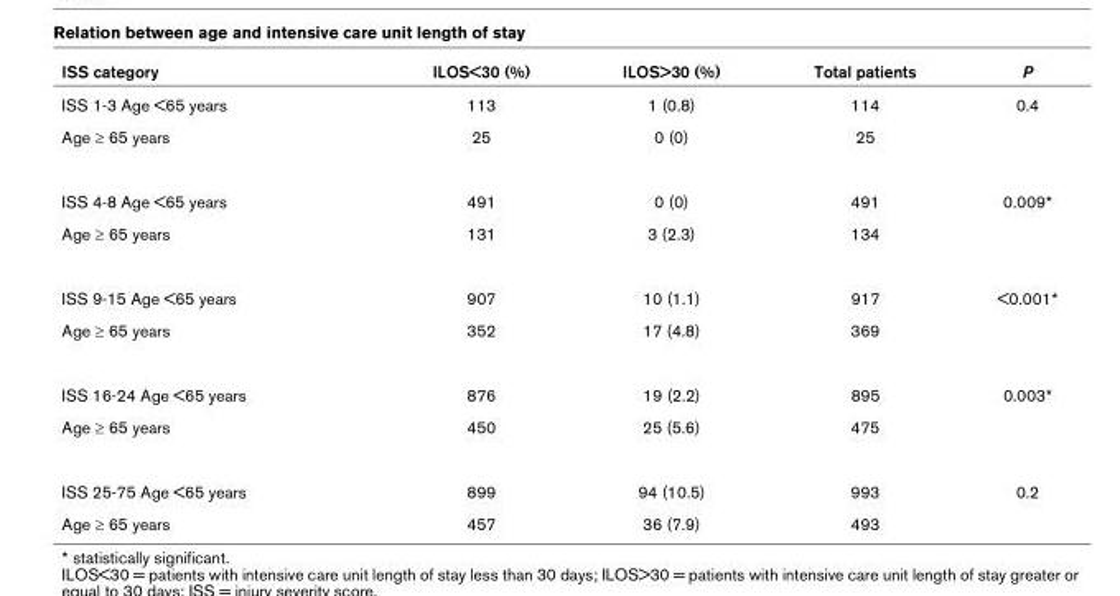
<table><thead><tr><td>ISS category</td><td>ILOS&lt;30 (%)</td><td>ILOS&gt;30 (%)</td><td>Total patients</td><td>P</td></tr></thead><tbody><tr><td>ISS 1-3 Age &lt;65 years</td><td>113</td><td>1 (0.8)</td><td>114</td><td>0.4</td></tr><tr><td>Age ≥ 65 years</td><td>25</td><td>0 (0)</td><td>25</td><td></td></tr><tr><td>ISS 4-8 Age &lt;65 years</td><td>491</td><td>0 (0)</td><td>491</td><td>0.009*</td></tr><tr><td>Age ≥ 65 years</td><td>131</td><td>3 (2.3)</td><td>134</td><td></td></tr><tr><td>ISS 9-15 Age &lt;65 years</td><td>907</td><td>10 (1.1)</td><td>917</td><td>&lt;0.001*</td></tr><tr><td>Age ≥ 65 years</td><td>352</td><td>17 (4.8)</td><td>369</td><td></td></tr><tr><td>ISS 16-24 Age &lt;65 years</td><td>876</td><td>19 (2.2)</td><td>895</td><td>0.003*</td></tr><tr><td>Age ≥ 65 years</td><td>450</td><td>25 (5.6)</td><td>475</td><td></td></tr><tr><td>ISS 25-75 Age &lt;65 years</td><td>899</td><td>94 (10.5)</td><td>993</td><td>0.2</td></tr><tr><td>Age ≥ 65 years</td><td>457</td><td>36 (7.9)</td><td>493</td><td></td></tr></tbody></table>